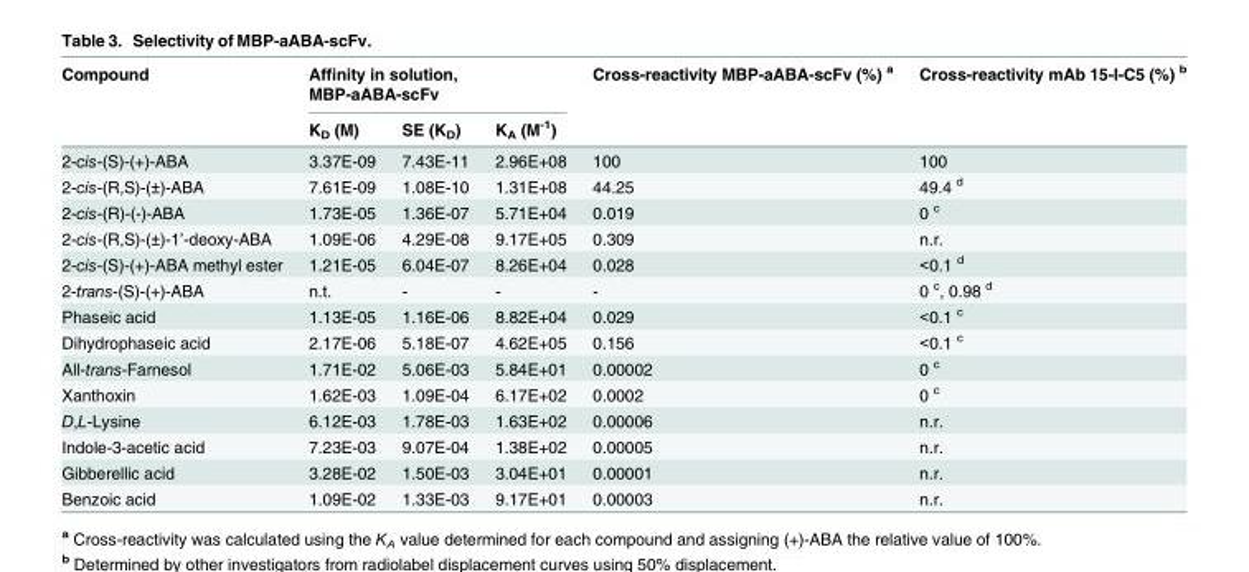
<table><thead><tr><td rowspan="2">Compound</td><td colspan="3">Affinity in solution, MBP-aABA-scFv</td><td rowspan="2">Cross-reactivity MBP-aABA-scFv (%) <sup>a</sup></td><td rowspan="2">Cross-reactivity mAb 15-I-C5 (%) <sup>b</sup></td></tr><tr><td>K<sub>D</sub> (M)</td><td>SE (K<sub>D</sub>)</td><td>K<sub>A</sub> (M<sup>-1</sup>)</td></tr></thead><tbody><tr><td>2-cis-(S)-(+)-ABA</td><td>3.37E-09</td><td>7.43E-11</td><td>2.96E+08</td><td>100</td><td>100</td></tr><tr><td>2-cis-(R,S)-(±)-ABA</td><td>7.61E-09</td><td>1.08E-10</td><td>1.31E+08</td><td>44.25</td><td>49.4 <sup>d</sup></td></tr><tr><td>2-cis-(R)-(-)-ABA</td><td>1.73E-05</td><td>1.36E-07</td><td>5.71E+04</td><td>0.019</td><td>0 <sup>c</sup></td></tr><tr><td>2-cis-(R,S)-(±)-1’-deoxy-ABA</td><td>1.09E-06</td><td>4.29E-08</td><td>9.17E+05</td><td>0.309</td><td>n.r.</td></tr><tr><td>2-cis-(S)-(+)-ABA methyl ester</td><td>1.21E-05</td><td>6.04E-07</td><td>8.26E+04</td><td>0.028</td><td>&lt;0.1 <sup>d</sup></td></tr><tr><td>2-trans-(S)-(+)-ABA</td><td>n.t.</td><td>-</td><td>-</td><td>-</td><td>0 <sup>c</sup>, 0.98 <sup>d</sup></td></tr><tr><td>Phaseic acid</td><td>1.13E-05</td><td>1.16E-06</td><td>8.82E+04</td><td>0.029</td><td>&lt;0.1 <sup>c</sup></td></tr><tr><td>Dihydrophaseic acid</td><td>2.17E-06</td><td>5.18E-07</td><td>4.62E+05</td><td>0.156</td><td>&lt;0.1 <sup>c</sup></td></tr><tr><td>All-trans-Farnesol</td><td>1.71E-02</td><td>5.06E-03</td><td>5.84E+01</td><td>0.00002</td><td>0 <sup>c</sup></td></tr><tr><td>Xanthoxin</td><td>1.62E-03</td><td>1.09E-04</td><td>6.17E+02</td><td>0.0002</td><td>0 <sup>c</sup></td></tr><tr><td>D,L-Lysine</td><td>6.12E-03</td><td>1.78E-03</td><td>1.63E+02</td><td>0.00006</td><td>n.r.</td></tr><tr><td>Indole-3-acetic acid</td><td>7.23E-03</td><td>9.07E-04</td><td>1.38E+02</td><td>0.00005</td><td>n.r.</td></tr><tr><td>Gibberellic acid</td><td>3.28E-02</td><td>1.50E-03</td><td>3.04E+01</td><td>0.00001</td><td>n.r.</td></tr><tr><td>Benzoic acid</td><td>1.09E-02</td><td>1.33E-03</td><td>9.17E+01</td><td>0.00003</td><td>n.r.</td></tr></tbody></table>